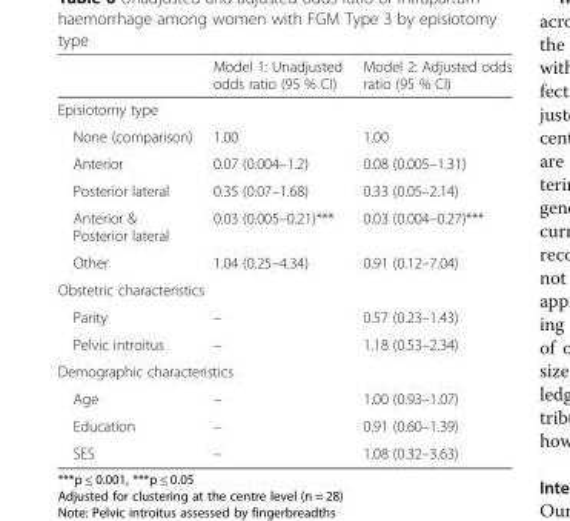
<table><thead><tr><td></td><td>Model 1: Unadjusted odds ratio (95 % CI)</td><td>Model 2: Adjusted odds ratio (95 % CI)</td></tr></thead><tbody><tr><td colspan="3">Episiotomy type</td></tr><tr><td>None (comparison)</td><td>1.00</td><td>1.00</td></tr><tr><td>Anterior</td><td>0.07 (0.004–1.2)</td><td>0.08 (0.005–1.31)</td></tr><tr><td>Posterior lateral</td><td>0.35 (0.07–1.68)</td><td>0.33 (0.05–2.14)</td></tr><tr><td>Anterior &amp; Posterior lateral</td><td>0.03 (0.005–0.21)***</td><td>0.03 (0.004–0.27)***</td></tr><tr><td>Other</td><td>1.04 (0.25–4.34)</td><td>0.91 (0.12–7.04)</td></tr><tr><td colspan="3">Obstetric characteristics</td></tr><tr><td>Parity</td><td>–</td><td>0.57 (0.23–1.43)</td></tr><tr><td>Pelvic introitus</td><td>–</td><td>1.18 (0.53–2.34)</td></tr><tr><td colspan="3">Demographic characteristics</td></tr><tr><td>Age</td><td>–</td><td>1.00 (0.93–1.07)</td></tr><tr><td>Education</td><td>–</td><td>0.91 (0.60–1.39)</td></tr><tr><td>SES</td><td>–</td><td>1.08 (0.32–3.63)</td></tr></tbody></table>